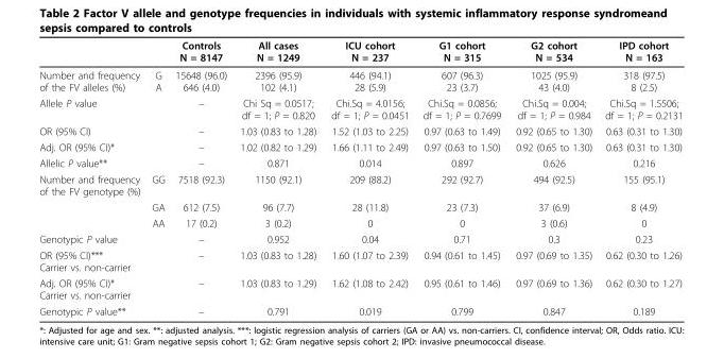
<table><thead><tr><td></td><td></td><td>Controls N = 8147</td><td>All cases N = 1249</td><td>ICU cohort N = 237</td><td>G1 cohort N = 315</td><td>G2 cohort N = 534</td><td>IPD cohort N = 163</td></tr></thead><tbody><tr><td>Number and frequency of the FV alleles (%)</td><td>G A</td><td>15648 (96.0) 646 (4.0)</td><td>2396 (95.9) 102 (4.1)</td><td>446 (94.1) 28 (5.9)</td><td>607 (96.3) 23 (3.7)</td><td>1025 (95.9) 43 (4.0)</td><td>318 (97.5) 8 (2.5)</td></tr><tr><td>Allele P value</td><td></td><td>–</td><td>Chi Sq = 0.0517; df = 1; P = 0.820</td><td>Chi.Sq = 4.0156; df = 1; P = 0.0451</td><td>Chi.Sq = 0.0856; df = 1; P = 0.7699</td><td>Chi.Sq = 0.004; df = 1; P = 0.984</td><td>Chi.Sq = 1.5506; df = 1; P = 0.2131</td></tr><tr><td>OR (95% CI)</td><td></td><td>–</td><td>1.03 (0.83 to 1.28)</td><td>1.52 (1.03 to 2.25)</td><td>0.97 (0.63 to 1.49)</td><td>0.92 (0.65 to 1.30)</td><td>0.63 (0.31 to 1.30)</td></tr><tr><td>Adj. OR (95% CI)*</td><td></td><td>–</td><td>1.02 (0.82 to 1.29)</td><td>1.66 (1.11 to 2.49)</td><td>0.97 (0.63 to 1.50)</td><td>0.92 (0.65 to 1.30)</td><td>0.63 (0.31 to 1.30)</td></tr><tr><td>Allelic P value**</td><td></td><td>–</td><td>0.871</td><td>0.014</td><td>0.897</td><td>0.626</td><td>0.216</td></tr><tr><td rowspan="3">Number and frequency of the FV genotype (%)</td><td>GG</td><td>7518 (92.3)</td><td>1150 (92.1)</td><td>209 (88.2)</td><td>292 (92.7)</td><td>494 (92.5)</td><td>155 (95.1)</td></tr><tr><td>GA</td><td>612 (7.5)</td><td>96 (7.7)</td><td>28 (11.8)</td><td>23 (7.3)</td><td>37 (6.9)</td><td>8 (4.9)</td></tr><tr><td>AA</td><td>17 (0.2)</td><td>3 (0.2)</td><td>0</td><td>0</td><td>3 (0.6)</td><td>0</td></tr><tr><td>Genotypic P value</td><td></td><td>–</td><td>0.952</td><td>0.04</td><td>0.71</td><td>0.3</td><td>0.23</td></tr><tr><td>OR (95% CI)*** Carrier vs. non-carrier</td><td></td><td>–</td><td>1.03 (0.83 to 1.28)</td><td>1.60 (1.07 to 2.39)</td><td>0.94 (0.61 to 1.45)</td><td>0.97 (0.69 to 1.35)</td><td>0.62 (0.30 to 1.26)</td></tr><tr><td>Adj. OR (95% CI)* Carrier vs. non-carrier</td><td></td><td>–</td><td>1.03 (0.83 to 1.29)</td><td>1.62 (1.08 to 2.42)</td><td>0.95 (0.61 to 1.46)</td><td>0.97 (0.69 to 1.36)</td><td>0.62 (0.30 to 1.27)</td></tr><tr><td>Genotypic P value**</td><td></td><td>–</td><td>0.791</td><td>0.019</td><td>0.799</td><td>0.847</td><td>0.189</td></tr></tbody></table>